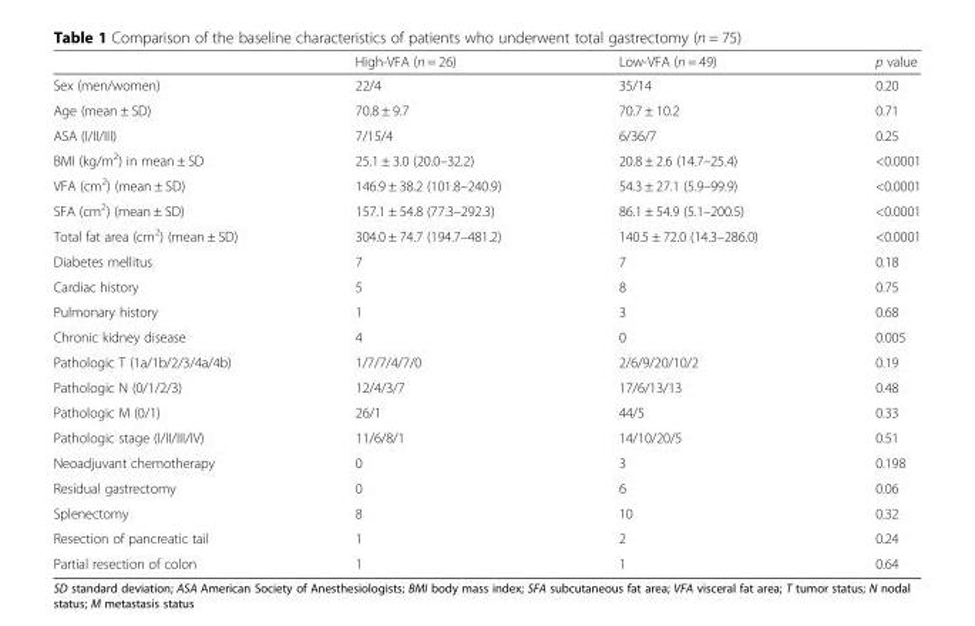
<table><thead><tr><td></td><td>High-VFA (n = 26)</td><td>Low-VFA (n = 49)</td><td>p value</td></tr></thead><tbody><tr><td>Sex (men/women)</td><td>22/4</td><td>35/14</td><td>0.20</td></tr><tr><td>Age (mean ± SD)</td><td>70.8 ± 9.7</td><td>70.7 ± 10.2</td><td>0.71</td></tr><tr><td>ASA (I/II/III)</td><td>7/15/4</td><td>6/36/7</td><td>0.25</td></tr><tr><td>BMI (kg/m<sup>2</sup>) in mean ± SD</td><td>25.1 ± 3.0 (20.0–32.2)</td><td>20.8 ± 2.6 (14.7–25.4)</td><td>&lt;0.0001</td></tr><tr><td>VFA (cm<sup>2</sup>) (mean ± SD)</td><td>146.9 ± 38.2 (101.8–240.9)</td><td>54.3 ± 27.1 (5.9–99.9)</td><td>&lt;0.0001</td></tr><tr><td>SFA (cm<sup>2</sup>) (mean ± SD)</td><td>157.1 ± 54.8 (77.3–292.3)</td><td>86.1 ± 54.9 (5.1–200.5)</td><td>&lt;0.0001</td></tr><tr><td>Total fat area (cm<sup>2</sup>) (mean ± SD)</td><td>304.0 ± 74.7 (194.7–481.2)</td><td>140.5 ± 72.0 (14.3–286.0)</td><td>&lt;0.0001</td></tr><tr><td>Diabetes mellitus</td><td>7</td><td>7</td><td>0.18</td></tr><tr><td>Cardiac history</td><td>5</td><td>8</td><td>0.75</td></tr><tr><td>Pulmonary history</td><td>1</td><td>3</td><td>0.68</td></tr><tr><td>Chronic kidney disease</td><td>4</td><td>0</td><td>0.005</td></tr><tr><td>Pathologic T (1a/1b/2/3/4a/4b)</td><td>1/7/7/4/7/0</td><td>2/6/9/20/10/2</td><td>0.19</td></tr><tr><td>Pathologic N (0/1/2/3)</td><td>12/4/3/7</td><td>17/6/13/13</td><td>0.48</td></tr><tr><td>Pathologic M (0/1)</td><td>26/1</td><td>44/5</td><td>0.33</td></tr><tr><td>Pathologic stage (I/II/III/IV)</td><td>11/6/8/1</td><td>14/10/20/5</td><td>0.51</td></tr><tr><td>Neoadjuvant chemotherapy</td><td>0</td><td>3</td><td>0.198</td></tr><tr><td>Residual gastrectomy</td><td>0</td><td>6</td><td>0.06</td></tr><tr><td>Splenectomy</td><td>8</td><td>10</td><td>0.32</td></tr><tr><td>Resection of pancreatic tail</td><td>1</td><td>2</td><td>0.24</td></tr><tr><td>Partial resection of colon</td><td>1</td><td>1</td><td>0.64</td></tr></tbody></table>